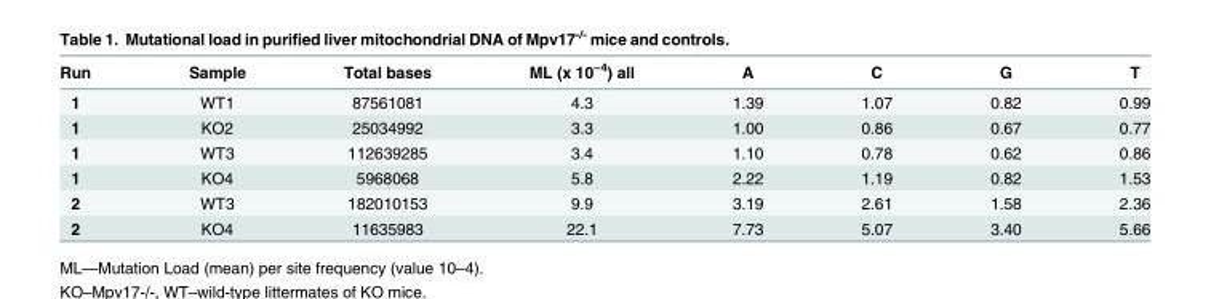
<table><thead><tr><td>Run</td><td>Sample</td><td>Total bases</td><td>ML (x 10<sup>−4</sup>) all</td><td>A</td><td>C</td><td>G</td><td>T</td></tr></thead><tbody><tr><td>1</td><td>WT1</td><td>87561081</td><td>4.3</td><td>1.39</td><td>1.07</td><td>0.82</td><td>0.99</td></tr><tr><td>1</td><td>KO2</td><td>25034992</td><td>3.3</td><td>1.00</td><td>0.86</td><td>0.67</td><td>0.77</td></tr><tr><td>1</td><td>WT3</td><td>112639285</td><td>3.4</td><td>1.10</td><td>0.78</td><td>0.62</td><td>0.86</td></tr><tr><td>1</td><td>KO4</td><td>5968068</td><td>5.8</td><td>2.22</td><td>1.19</td><td>0.82</td><td>1.53</td></tr><tr><td>2</td><td>WT3</td><td>182010153</td><td>9.9</td><td>3.19</td><td>2.61</td><td>1.58</td><td>2.36</td></tr><tr><td>2</td><td>KO4</td><td>11635983</td><td>22.1</td><td>7.73</td><td>5.07</td><td>3.40</td><td>5.66</td></tr></tbody></table>